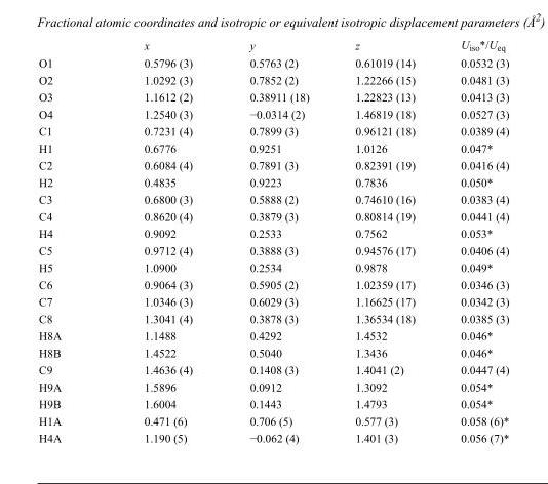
<table><thead><tr><td></td><td>x</td><td>y</td><td>z</td><td>U<sub>iso</sub>*/U<sub>eq</sub></td></tr></thead><tbody><tr><td>O1</td><td>0.5796 (3)</td><td>0.5763 (2)</td><td>0.61019 (14)</td><td>0.0532 (3)</td></tr><tr><td>O2</td><td>1.0292 (3)</td><td>0.7852 (2)</td><td>1.22266 (15)</td><td>0.0481 (3)</td></tr><tr><td>O3</td><td>1.1612 (2)</td><td>0.38911 (18)</td><td>1.22823 (13)</td><td>0.0413 (3)</td></tr><tr><td>O4</td><td>1.2540 (3)</td><td>−0.0314 (2)</td><td>1.46819 (18)</td><td>0.0527 (3)</td></tr><tr><td>C1</td><td>0.7231 (4)</td><td>0.7899 (3)</td><td>0.96121 (18)</td><td>0.0389 (4)</td></tr><tr><td>H1</td><td>0.6776</td><td>0.9251</td><td>1.0126</td><td>0.047*</td></tr><tr><td>C2</td><td>0.6084 (4)</td><td>0.7891 (3)</td><td>0.82391 (19)</td><td>0.0416 (4)</td></tr><tr><td>H2</td><td>0.4835</td><td>0.9223</td><td>0.7836</td><td>0.050*</td></tr><tr><td>C3</td><td>0.6800 (3)</td><td>0.5888 (2)</td><td>0.74610 (16)</td><td>0.0383 (4)</td></tr><tr><td>C4</td><td>0.8620 (4)</td><td>0.3879 (3)</td><td>0.80814 (19)</td><td>0.0441 (4)</td></tr><tr><td>H4</td><td>0.9092</td><td>0.2533</td><td>0.7562</td><td>0.053*</td></tr><tr><td>C5</td><td>0.9712 (4)</td><td>0.3888 (3)</td><td>0.94576 (17)</td><td>0.0406 (4)</td></tr><tr><td>H5</td><td>1.0900</td><td>0.2534</td><td>0.9878</td><td>0.049*</td></tr><tr><td>C6</td><td>0.9064 (3)</td><td>0.5905 (2)</td><td>1.02359 (17)</td><td>0.0346 (3)</td></tr><tr><td>C7</td><td>1.0346 (3)</td><td>0.6029 (3)</td><td>1.16625 (17)</td><td>0.0342 (3)</td></tr><tr><td>C8</td><td>1.3041 (4)</td><td>0.3878 (3)</td><td>1.36534 (18)</td><td>0.0385 (3)</td></tr><tr><td>H8A</td><td>1.1488</td><td>0.4292</td><td>1.4532</td><td>0.046*</td></tr><tr><td>H8B</td><td>1.4522</td><td>0.5040</td><td>1.3436</td><td>0.046*</td></tr><tr><td>C9</td><td>1.4636 (4)</td><td>0.1408 (3)</td><td>1.4041 (2)</td><td>0.0447 (4)</td></tr><tr><td>H9A</td><td>1.5896</td><td>0.0912</td><td>1.3092</td><td>0.054*</td></tr><tr><td>H9B</td><td>1.6004</td><td>0.1443</td><td>1.4793</td><td>0.054*</td></tr><tr><td>H1A</td><td>0.471 (6)</td><td>0.706 (5)</td><td>0.577 (3)</td><td>0.058 (6)*</td></tr><tr><td>H4A</td><td>1.190 (5)</td><td>−0.062 (4)</td><td>1.401 (3)</td><td>0.056 (7)*</td></tr></tbody></table>